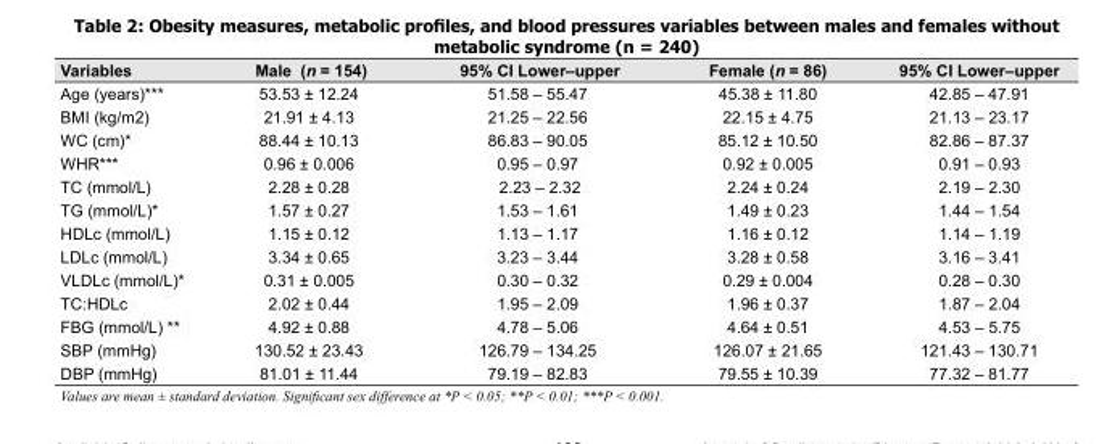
<table><thead><tr><td>Variables</td><td>Male (n = 154)</td><td>95% CI Lower–upper</td><td>Female (n = 86)</td><td>95% CI Lower–upper</td></tr></thead><tbody><tr><td>Age (years)***</td><td>53.53 ± 12.24</td><td>51.58 – 55.47</td><td>45.38 ± 11.80</td><td>42.85 – 47.91</td></tr><tr><td>BMI (kg/m2)</td><td>21.91 ± 4.13</td><td>21.25 – 22.56</td><td>22.15 ± 4.75</td><td>21.13 – 23.17</td></tr><tr><td>WC (cm)*</td><td>88.44 ± 10.13</td><td>86.83 – 90.05</td><td>85.12 ± 10.50</td><td>82.86 – 87.37</td></tr><tr><td>WHR***</td><td>0.96 ± 0.006</td><td>0.95 – 0.97</td><td>0.92 ± 0.005</td><td>0.91 – 0.93</td></tr><tr><td>TC (mmol/L)</td><td>2.28 ± 0.28</td><td>2.23 – 2.32</td><td>2.24 ± 0.24</td><td>2.19 – 2.30</td></tr><tr><td>TG (mmol/L)*</td><td>1.57 ± 0.27</td><td>1.53 – 1.61</td><td>1.49 ± 0.23</td><td>1.44 – 1.54</td></tr><tr><td>HDLc (mmol/L)</td><td>1.15 ± 0.12</td><td>1.13 – 1.17</td><td>1.16 ± 0.12</td><td>1.14 – 1.19</td></tr><tr><td>LDLc (mmol/L)</td><td>3.34 ± 0.65</td><td>3.23 – 3.44</td><td>3.28 ± 0.58</td><td>3.16 – 3.41</td></tr><tr><td>VLDLc (mmol/L)*</td><td>0.31 ± 0.005</td><td>0.30 – 0.32</td><td>0.29 ± 0.004</td><td>0.28 – 0.30</td></tr><tr><td>TC:HDLc</td><td>2.02 ± 0.44</td><td>1.95 – 2.09</td><td>1.96 ± 0.37</td><td>1.87 – 2.04</td></tr><tr><td>FBG (mmol/L) **</td><td>4.92 ± 0.88</td><td>4.78 – 5.06</td><td>4.64 ± 0.51</td><td>4.53 – 5.75</td></tr><tr><td>SBP (mmHg)</td><td>130.52 ± 23.43</td><td>126.79 – 134.25</td><td>126.07 ± 21.65</td><td>121.43 – 130.71</td></tr><tr><td>DBP (mmHg)</td><td>81.01 ± 11.44</td><td>79.19 – 82.83</td><td>79.55 ± 10.39</td><td>77.32 – 81.77</td></tr></tbody></table>